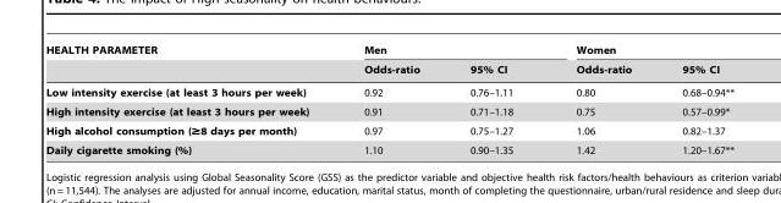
<table><thead><tr><td rowspan="2">HEALTH PARAMETER</td><td colspan="2">Men</td><td colspan="2">Women</td></tr><tr><td>Odds-ratio</td><td>95% CI</td><td>Odds-ratio</td><td>95% CI</td></tr></thead><tbody><tr><td>Low intensity exercise (at least 3 hours per week)</td><td>0.92</td><td>0.76–1.11</td><td>0.80</td><td>0.68–0.94**</td></tr><tr><td>High intensity exercise (at least 3 hours per week)</td><td>0.91</td><td>0.71–1.18</td><td>0.75</td><td>0.57–0.99*</td></tr><tr><td>High alcohol consumption (≥8 days per month)</td><td>0.97</td><td>0.75–1.27</td><td>1.06</td><td>0.82–1.37</td></tr><tr><td>Daily cigarette smoking (%)</td><td>1.10</td><td>0.90–1.35</td><td>1.42</td><td>1.20–1.67**</td></tr></tbody></table>